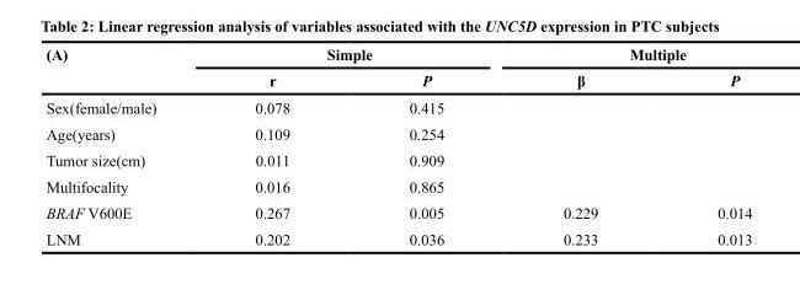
<table><thead><tr><td rowspan="2">(A)</td><td colspan="2">Simple</td><td colspan="2">Multiple</td></tr><tr><td>r</td><td>P</td><td>β</td><td>P</td></tr></thead><tbody><tr><td>Sex(female/male)</td><td>0.078</td><td>0.415</td><td></td><td></td></tr><tr><td>Age(years)</td><td>0.109</td><td>0.254</td><td></td><td></td></tr><tr><td>Tumor size(cm)</td><td>0.011</td><td>0.909</td><td></td><td></td></tr><tr><td>Multifocality</td><td>0.016</td><td>0.865</td><td></td><td></td></tr><tr><td>BRAF V600E</td><td>0.267</td><td>0.005</td><td>0.229</td><td>0.014</td></tr><tr><td>LNM</td><td>0.202</td><td>0.036</td><td>0.233</td><td>0.013</td></tr></tbody></table>